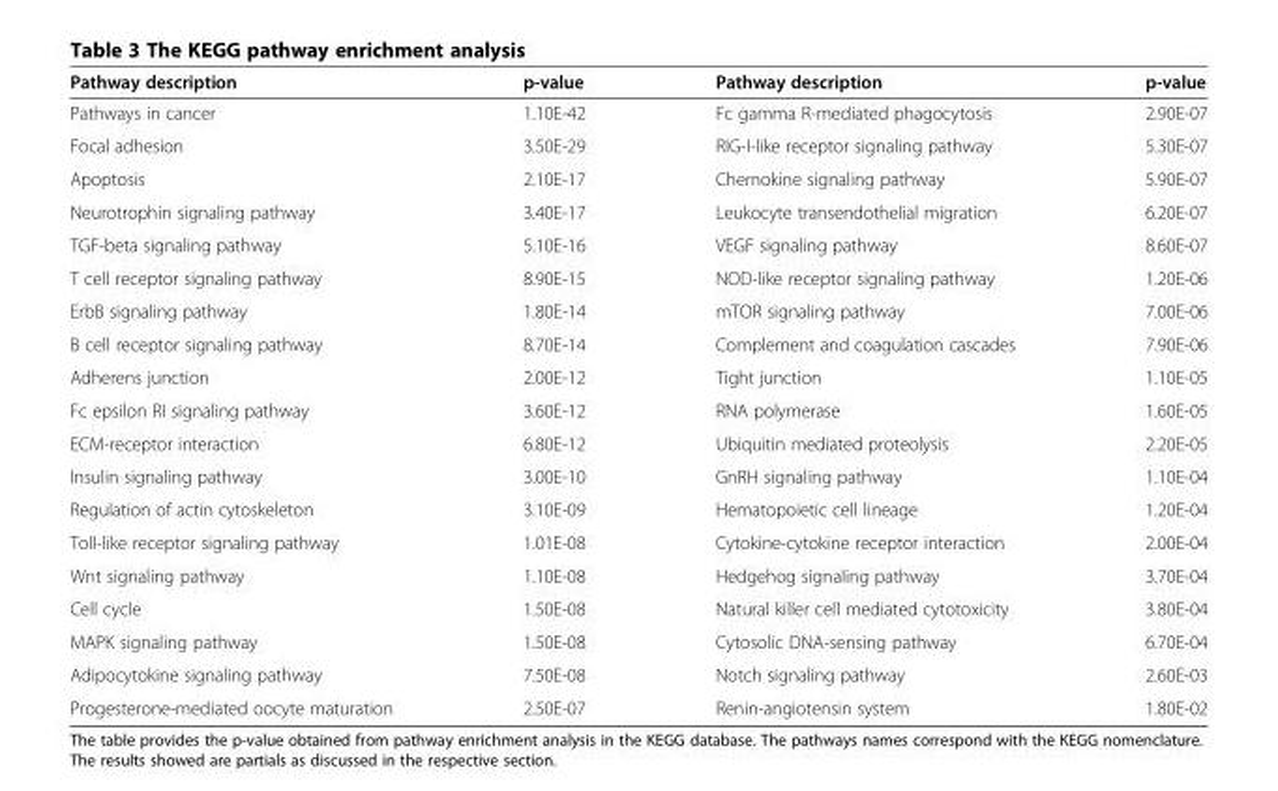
<table><thead><tr><td>Pathway description</td><td>p-value</td><td>Pathway description</td><td>p-value</td></tr></thead><tbody><tr><td>Pathways in cancer</td><td>1.10E-42</td><td>Fc gamma R-mediated phagocytosis</td><td>2.90E-07</td></tr><tr><td>Focal adhesion</td><td>3.50E-29</td><td>RIG-I-like receptor signaling pathway</td><td>5.30E-07</td></tr><tr><td>Apoptosis</td><td>2.10E-17</td><td>Chemokine signaling pathway</td><td>5.90E-07</td></tr><tr><td>Neurotrophin signaling pathway</td><td>3.40E-17</td><td>Leukocyte transendothelial migration</td><td>6.20E-07</td></tr><tr><td>TGF-beta signaling pathway</td><td>5.10E-16</td><td>VEGF signaling pathway</td><td>8.60E-07</td></tr><tr><td>T cell receptor signaling pathway</td><td>8.90E-15</td><td>NOD-like receptor signaling pathway</td><td>1.20E-06</td></tr><tr><td>ErbB signaling pathway</td><td>1.80E-14</td><td>mTOR signaling pathway</td><td>7.00E-06</td></tr><tr><td>B cell receptor signaling pathway</td><td>8.70E-14</td><td>Complement and coagulation cascades</td><td>7.90E-06</td></tr><tr><td>Adherens junction</td><td>2.00E-12</td><td>Tight junction</td><td>1.10E-05</td></tr><tr><td>Fc epsilon RI signaling pathway</td><td>3.60E-12</td><td>RNA polymerase</td><td>1.60E-05</td></tr><tr><td>ECM-receptor interaction</td><td>6.80E-12</td><td>Ubiquitin mediated proteolysis</td><td>2.20E-05</td></tr><tr><td>Insulin signaling pathway</td><td>3.00E-10</td><td>GnRH signaling pathway</td><td>1.10E-04</td></tr><tr><td>Regulation of actin cytoskeleton</td><td>3.10E-09</td><td>Hematopoietic cell lineage</td><td>1.20E-04</td></tr><tr><td>Toll-like receptor signaling pathway</td><td>1.01E-08</td><td>Cytokine-cytokine receptor interaction</td><td>2.00E-04</td></tr><tr><td>Wnt signaling pathway</td><td>1.10E-08</td><td>Hedgehog signaling pathway</td><td>3.70E-04</td></tr><tr><td>Cell cycle</td><td>1.50E-08</td><td>Natural killer cell mediated cytotoxicity</td><td>3.80E-04</td></tr><tr><td>MAPK signaling pathway</td><td>1.50E-08</td><td>Cytosolic DNA-sensing pathway</td><td>6.70E-04</td></tr><tr><td>Adipocytokine signaling pathway</td><td>7.50E-08</td><td>Notch signaling pathway</td><td>2.60E-03</td></tr><tr><td>Progesterone-mediated oocyte maturation</td><td>2.50E-07</td><td>Renin-angiotensin system</td><td>1.80E-02</td></tr></tbody></table>